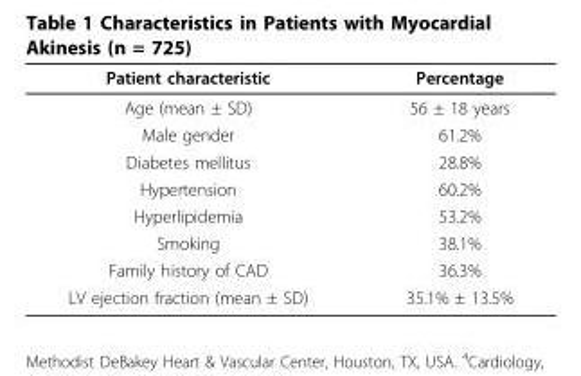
<table><thead><tr><td>Patient characteristic</td><td>Percentage</td></tr></thead><tbody><tr><td>Age (mean ± SD)</td><td>56 ± 18 years</td></tr><tr><td>Male gender</td><td>61.2%</td></tr><tr><td>Diabetes mellitus</td><td>28.8%</td></tr><tr><td>Hypertension</td><td>60.2%</td></tr><tr><td>Hyperlipidemia</td><td>53.2%</td></tr><tr><td>Smoking</td><td>38.1%</td></tr><tr><td>Family history of CAD</td><td>36.3%</td></tr><tr><td>LV ejection fraction (mean ± SD)</td><td>35.1% ± 13.5%</td></tr></tbody></table>